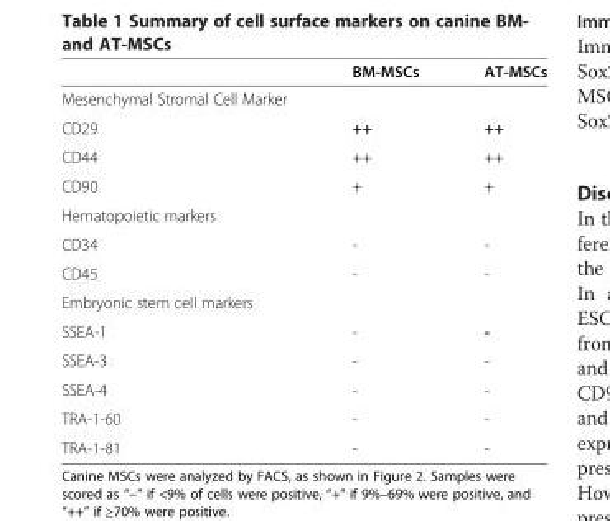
<table><thead><tr><td></td><td>BM-MSCs</td><td>AT-MSCs</td></tr></thead><tbody><tr><td colspan="3">Mesenchymal Stromal Cell Marker</td></tr><tr><td>CD29</td><td>++</td><td>++</td></tr><tr><td>CD44</td><td>++</td><td>++</td></tr><tr><td>CD90</td><td>+</td><td>+</td></tr><tr><td colspan="3">Hematopoietic markers</td></tr><tr><td>CD34</td><td>-</td><td>-</td></tr><tr><td>CD45</td><td>-</td><td>-</td></tr><tr><td colspan="3">Embryonic stem cell markers</td></tr><tr><td>SSEA-1</td><td>-</td><td>-</td></tr><tr><td>SSEA-3</td><td>-</td><td>-</td></tr><tr><td>SSEA-4</td><td>-</td><td>-</td></tr><tr><td>TRA-1-60</td><td>-</td><td>-</td></tr><tr><td>TRA-1-81</td><td>-</td><td>-</td></tr></tbody></table>